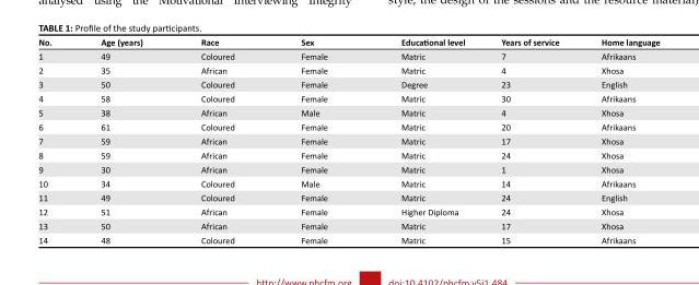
<table><thead><tr><td>No.</td><td>Age (years)</td><td>Race</td><td>Sex</td><td>Educational level</td><td>Years of service</td><td>Home language</td></tr></thead><tbody><tr><td>1</td><td>49</td><td>Coloured</td><td>Female</td><td>Matric</td><td>7</td><td>Afrikaans</td></tr><tr><td>2</td><td>35</td><td>African</td><td>Female</td><td>Matric</td><td>4</td><td>Xhosa</td></tr><tr><td>3</td><td>50</td><td>Coloured</td><td>Female</td><td>Degree</td><td>23</td><td>English</td></tr><tr><td>4</td><td>58</td><td>Coloured</td><td>Female</td><td>Matric</td><td>30</td><td>Afrikaans</td></tr><tr><td>5</td><td>38</td><td>African</td><td>Male</td><td>Matric</td><td>4</td><td>Xhosa</td></tr><tr><td>6</td><td>61</td><td>Coloured</td><td>Female</td><td>Matric</td><td>20</td><td>Afrikaans</td></tr><tr><td>7</td><td>59</td><td>African</td><td>Female</td><td>Matric</td><td>17</td><td>Xhosa</td></tr><tr><td>8</td><td>59</td><td>African</td><td>Female</td><td>Matric</td><td>24</td><td>Xhosa</td></tr><tr><td>9</td><td>30</td><td>African</td><td>Female</td><td>Matric</td><td>1</td><td>Xhosa</td></tr><tr><td>10</td><td>34</td><td>Coloured</td><td>Male</td><td>Matric</td><td>14</td><td>Afrikaans</td></tr><tr><td>11</td><td>49</td><td>Coloured</td><td>Female</td><td>Matric</td><td>24</td><td>English</td></tr><tr><td>12</td><td>51</td><td>African</td><td>Female</td><td>Higher Diploma</td><td>24</td><td>Xhosa</td></tr><tr><td>13</td><td>50</td><td>African</td><td>Female</td><td>Matric</td><td>17</td><td>Xhosa</td></tr><tr><td>14</td><td>48</td><td>Coloured</td><td>Female</td><td>Matric</td><td>15</td><td>Afrikaans</td></tr></tbody></table>